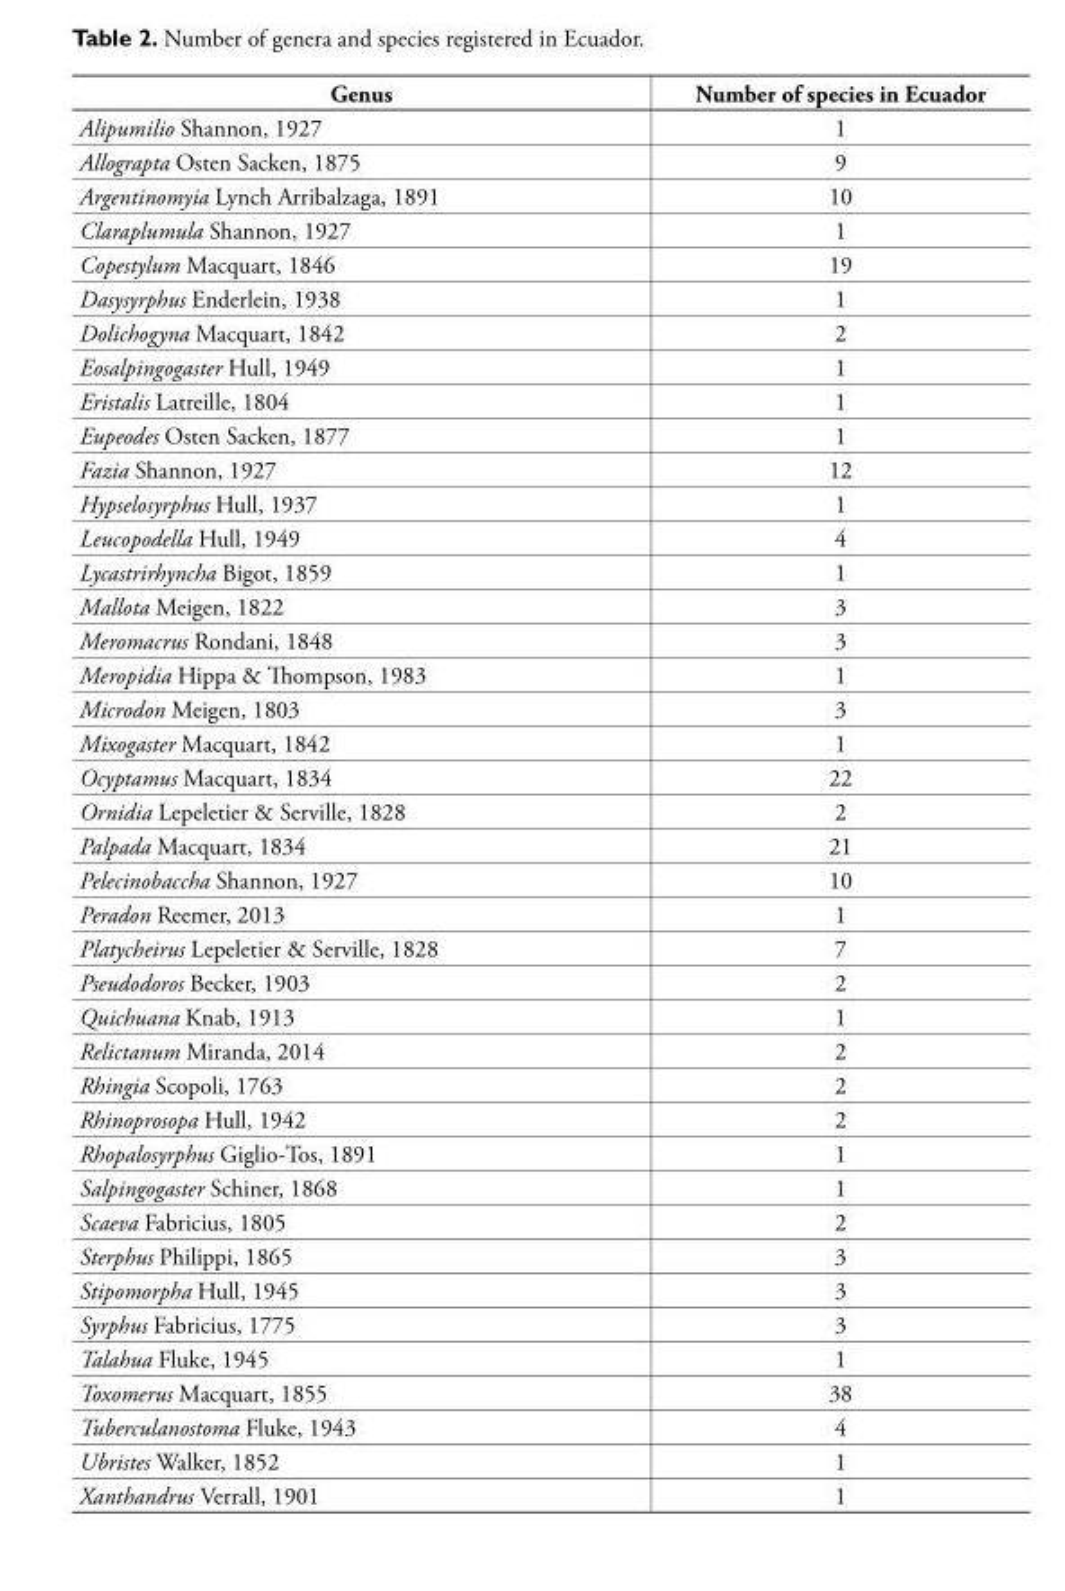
<table><thead><tr><td>Genus</td><td>Number of species in Ecuador</td></tr></thead><tbody><tr><td>Alipumilio Shannon, 1927</td><td>1</td></tr><tr><td>Allograpta Osten Sacken, 1875</td><td>9</td></tr><tr><td>Argentinomyia Lynch Arribalzaga, 1891</td><td>10</td></tr><tr><td>Claraplumula Shannon, 1927</td><td>1</td></tr><tr><td>Copestylum Macquart, 1846</td><td>19</td></tr><tr><td>Dasysyrphus Enderlein, 1938</td><td>1</td></tr><tr><td>Dolichogyna Macquart, 1842</td><td>2</td></tr><tr><td>Eosalpingogaster Hull, 1949</td><td>1</td></tr><tr><td>Eristalis Latreille, 1804</td><td>1</td></tr><tr><td>Eupeodes Osten Sacken, 1877</td><td>1</td></tr><tr><td>Fazia Shannon, 1927</td><td>12</td></tr><tr><td>Hypselosyrphus Hull, 1937</td><td>1</td></tr><tr><td>Leucopodella Hull, 1949</td><td>4</td></tr><tr><td>Lycastrirhyncha Bigot, 1859</td><td>1</td></tr><tr><td>Mallota Meigen, 1822</td><td>3</td></tr><tr><td>Meromacrus Rondani, 1848</td><td>3</td></tr><tr><td>Meropidia Hippa &amp; Thompson, 1983</td><td>1</td></tr><tr><td>Microdon Meigen, 1803</td><td>3</td></tr><tr><td>Mixogaster Macquart, 1842</td><td>1</td></tr><tr><td>Ocyptamus Macquart, 1834</td><td>22</td></tr><tr><td>Ornidia Lepeletier &amp; Serville, 1828</td><td>2</td></tr><tr><td>Palpada Macquart, 1834</td><td>21</td></tr><tr><td>Pelecinobaccha Shannon, 1927</td><td>10</td></tr><tr><td>Peradon Reemer, 2013</td><td>1</td></tr><tr><td>Platycheirus Lepeletier &amp; Serville, 1828</td><td>7</td></tr><tr><td>Pseudodoros Becker, 1903</td><td>2</td></tr><tr><td>Quichuana Knab, 1913</td><td>1</td></tr><tr><td>Relictanum Miranda, 2014</td><td>2</td></tr><tr><td>Rhingia Scopoli, 1763</td><td>2</td></tr><tr><td>Rhinoprosopa Hull, 1942</td><td>2</td></tr><tr><td>Rhopalosyrphus Giglio-Tos, 1891</td><td>1</td></tr><tr><td>Salpingogaster Schiner, 1868</td><td>1</td></tr><tr><td>Scaeva Fabricius, 1805</td><td>2</td></tr><tr><td>Sterphus Philippi, 1865</td><td>3</td></tr><tr><td>Stipomorpha Hull, 1945</td><td>3</td></tr><tr><td>Syrphus Fabricius, 1775</td><td>3</td></tr><tr><td>Talahua Fluke, 1945</td><td>1</td></tr><tr><td>Toxomerus Macquart, 1855</td><td>38</td></tr><tr><td>Tuberculanostoma Fluke, 1943</td><td>4</td></tr><tr><td>Ubristes Walker, 1852</td><td>1</td></tr><tr><td>Xanthandrus Verrall, 1901</td><td>1</td></tr></tbody></table>